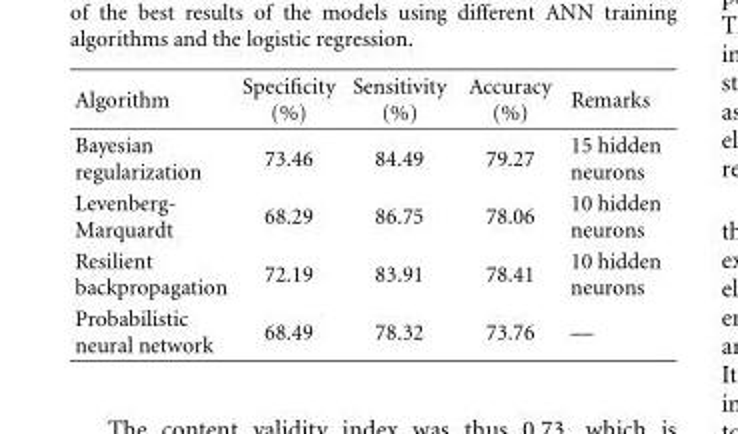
<table><thead><tr><td>Algorithm</td><td>Specificity (%)</td><td>Sensitivity (%)</td><td>Accuracy (%)</td><td>Remarks</td></tr></thead><tbody><tr><td>Bayesian regularization</td><td>73.46</td><td>84.49</td><td>79.27</td><td>15 hidden neurons</td></tr><tr><td>Levenberg- Marquardt</td><td>68.29</td><td>86.75</td><td>78.06</td><td>10 hidden neurons</td></tr><tr><td>Resilient backpropagation</td><td>72.19</td><td>83.91</td><td>78.41</td><td>10 hidden neurons</td></tr><tr><td>Probabilistic neural network</td><td>68.49</td><td>78.32</td><td>73.76</td><td>—</td></tr></tbody></table>